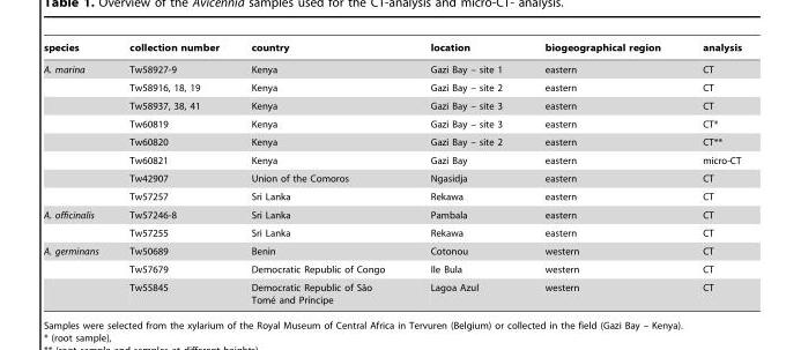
<table><thead><tr><td>species</td><td>collection number</td><td>country</td><td>location</td><td>biogeographical region</td><td>analysis</td></tr></thead><tbody><tr><td rowspan="8">A. marina</td><td>Tw58927-9</td><td>Kenya</td><td>Gazi Bay – site 1</td><td>eastern</td><td>CT</td></tr><tr><td>Tw58916, 18, 19</td><td>Kenya</td><td>Gazi Bay – site 2</td><td>eastern</td><td>CT</td></tr><tr><td>Tw58937, 38, 41</td><td>Kenya</td><td>Gazi Bay – site 3</td><td>eastern</td><td>CT</td></tr><tr><td>Tw60819</td><td>Kenya</td><td>Gazi Bay – site 3</td><td>eastern</td><td>CT*</td></tr><tr><td>Tw60820</td><td>Kenya</td><td>Gazi Bay – site 2</td><td>eastern</td><td>CT**</td></tr><tr><td>Tw60821</td><td>Kenya</td><td>Gazi Bay</td><td>eastern</td><td>micro-CT</td></tr><tr><td>Tw42907</td><td>Union of the Comoros</td><td>Ngasidja</td><td>eastern</td><td>CT</td></tr><tr><td>Tw57257</td><td>Sri Lanka</td><td>Rekawa</td><td>eastern</td><td>CT</td></tr><tr><td rowspan="2">A. officinalis</td><td>Tw57246-8</td><td>Sri Lanka</td><td>Pambala</td><td>eastern</td><td>CT</td></tr><tr><td>Tw57255</td><td>Sri Lanka</td><td>Rekawa</td><td>eastern</td><td>CT</td></tr><tr><td rowspan="3">A. germinans</td><td>Tw50689</td><td>Benin</td><td>Cotonou</td><td>western</td><td>CT</td></tr><tr><td>Tw57679</td><td>Democratic Republic of Congo</td><td>Ile Bula</td><td>western</td><td>CT</td></tr><tr><td>Tw55845</td><td>Democratic Republic of Sa˜o Tome´ and Prı´ncipe</td><td>Lagoa Azul</td><td>western</td><td>CT</td></tr></tbody></table>